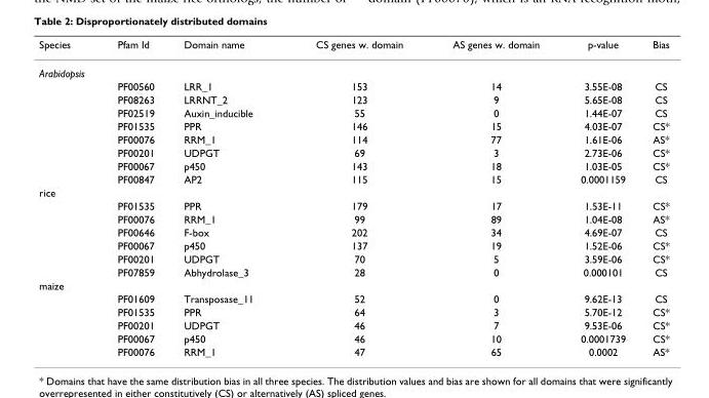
<table><thead><tr><td>Species</td><td>Pfam Id</td><td>Domain name</td><td>CS genes w. domain</td><td>AS genes w. domain</td><td>p-value</td><td>Bias</td></tr></thead><tbody><tr><td colspan="7">Arabidopsis</td></tr><tr><td></td><td>PF00560</td><td>LRR_1</td><td>153</td><td>14</td><td>3.55E-08</td><td>CS</td></tr><tr><td></td><td>PF08263</td><td>LRRNT_2</td><td>123</td><td>9</td><td>5.65E-08</td><td>CS</td></tr><tr><td></td><td>PF02519</td><td>Auxin_inducible</td><td>55</td><td>0</td><td>1.44E-07</td><td>CS</td></tr><tr><td></td><td>PF01535</td><td>PPR</td><td>146</td><td>15</td><td>4.03E-07</td><td>CS*</td></tr><tr><td></td><td>PF00076</td><td>RRM_1</td><td>114</td><td>77</td><td>1.61E-06</td><td>AS*</td></tr><tr><td></td><td>PF00201</td><td>UDPGT</td><td>69</td><td>3</td><td>2.73E-06</td><td>CS*</td></tr><tr><td></td><td>PF00067</td><td>p450</td><td>143</td><td>18</td><td>1.03E-05</td><td>CS*</td></tr><tr><td></td><td>PF00847</td><td>AP2</td><td>115</td><td>15</td><td>0.0001159</td><td>CS</td></tr><tr><td colspan="7">rice</td></tr><tr><td></td><td>PF01535</td><td>PPR</td><td>179</td><td>17</td><td>1.53E-11</td><td>CS*</td></tr><tr><td></td><td>PF00076</td><td>RRM_1</td><td>99</td><td>89</td><td>1.04E-08</td><td>AS*</td></tr><tr><td></td><td>PF00646</td><td>F-box</td><td>202</td><td>34</td><td>4.69E-07</td><td>CS</td></tr><tr><td></td><td>PF00067</td><td>p450</td><td>137</td><td>19</td><td>1.52E-06</td><td>CS*</td></tr><tr><td></td><td>PF00201</td><td>UDPGT</td><td>70</td><td>5</td><td>3.59E-06</td><td>CS*</td></tr><tr><td></td><td>PF07859</td><td>Abhydrolase_3</td><td>28</td><td>0</td><td>0.000101</td><td>CS</td></tr><tr><td colspan="7">maize</td></tr><tr><td></td><td>PF01609</td><td>Transposase_11</td><td>52</td><td>0</td><td>9.62E-13</td><td>CS</td></tr><tr><td></td><td>PF01535</td><td>PPR</td><td>64</td><td>3</td><td>5.70E-12</td><td>CS*</td></tr><tr><td></td><td>PF00201</td><td>UDPGT</td><td>46</td><td>7</td><td>9.53E-06</td><td>CS*</td></tr><tr><td></td><td>PF00067</td><td>p450</td><td>46</td><td>10</td><td>0.0001739</td><td>CS*</td></tr><tr><td></td><td>PF00076</td><td>RRM_1</td><td>47</td><td>65</td><td>0.0002</td><td>AS*</td></tr></tbody></table>